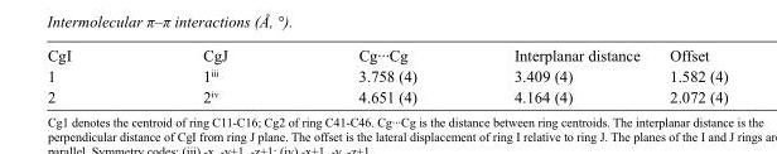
<table><tbody><tr><td>CgI</td><td>CgJ</td><td>Cg···Cg</td><td>Interplanar distance</td><td>Offset</td></tr><tr><td>1</td><td>1<sup>iii</sup></td><td>3.758 (4)</td><td>3.409 (4)</td><td>1.582 (4)</td></tr><tr><td>2</td><td>2<sup>iv</sup></td><td>4.651 (4)</td><td>4.164 (4)</td><td>2.072 (4)</td></tr></tbody></table>